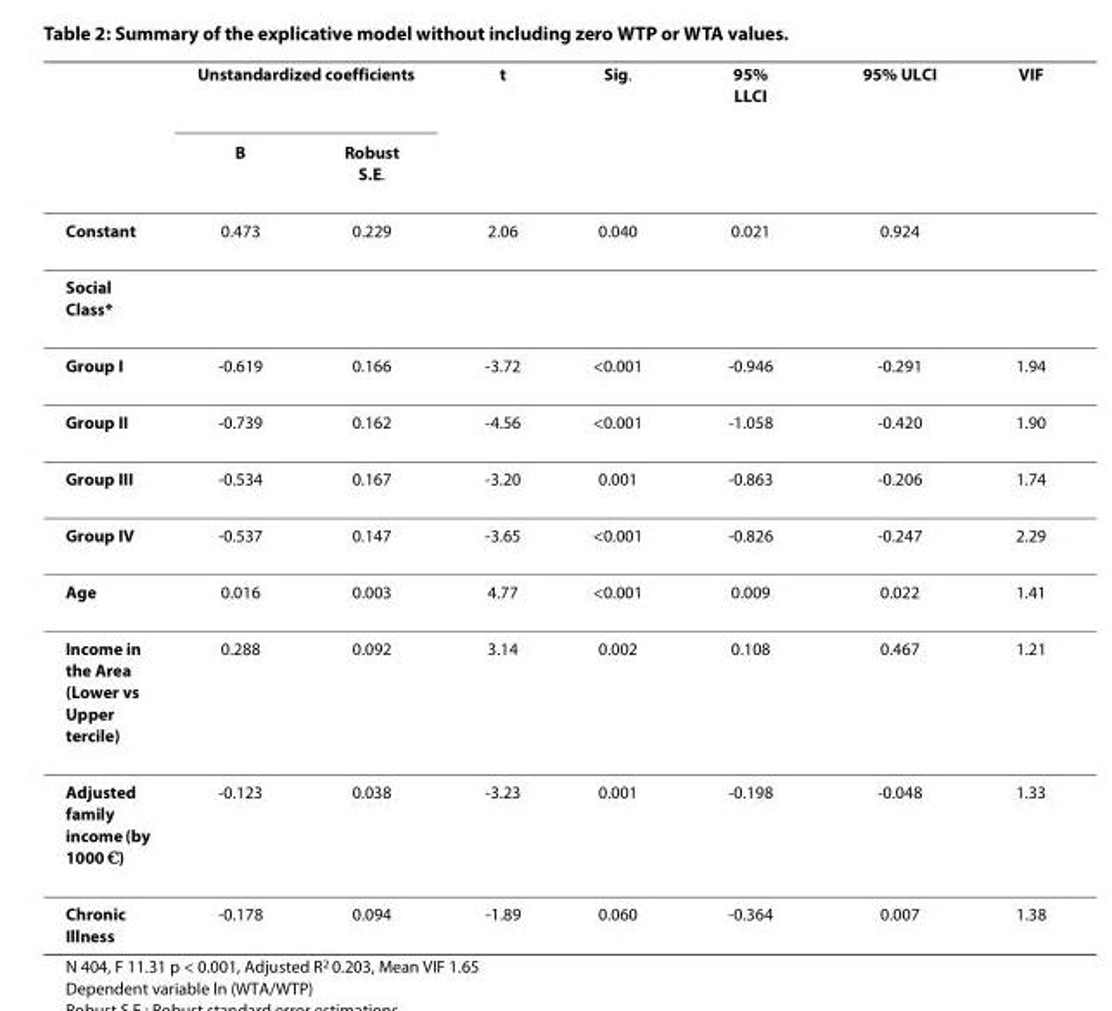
<table><thead><tr><td rowspan="2"></td><td colspan="2">Unstandardized coefficients</td><td rowspan="2">t</td><td rowspan="2">Sig.</td><td rowspan="2">95% LLCI</td><td rowspan="2">95% ULCI</td><td rowspan="2">VIF</td></tr><tr><td>B</td><td>Robust S.E.</td></tr></thead><tbody><tr><td>Constant</td><td>0.473</td><td>0.229</td><td>2.06</td><td>0.040</td><td>0.021</td><td>0.924</td><td></td></tr><tr><td colspan="8">Social Class*</td></tr><tr><td>Group I</td><td>-0.619</td><td>0.166</td><td>-3.72</td><td>&lt;0.001</td><td>-0.946</td><td>-0.291</td><td>1.94</td></tr><tr><td>Group II</td><td>-0.739</td><td>0.162</td><td>-4.56</td><td>&lt;0.001</td><td>-1.058</td><td>-0.420</td><td>1.90</td></tr><tr><td>Group III</td><td>-0.534</td><td>0.167</td><td>-3.20</td><td>0.001</td><td>-0.863</td><td>-0.206</td><td>1.74</td></tr><tr><td>Group IV</td><td>-0.537</td><td>0.147</td><td>-3.65</td><td>&lt;0.001</td><td>-0.826</td><td>-0.247</td><td>2.29</td></tr><tr><td>Age</td><td>0.016</td><td>0.003</td><td>4.77</td><td>&lt;0.001</td><td>0.009</td><td>0.022</td><td>1.41</td></tr><tr><td>Income in the Area (Lower vs Upper tercile)</td><td>0.288</td><td>0.092</td><td>3.14</td><td>0.002</td><td>0.108</td><td>0.467</td><td>1.21</td></tr><tr><td>Adjusted family income (by 1000 €)</td><td>-0.123</td><td>0.038</td><td>-3.23</td><td>0.001</td><td>-0.198</td><td>-0.048</td><td>1.33</td></tr><tr><td>Chronic Illness</td><td>-0.178</td><td>0.094</td><td>-1.89</td><td>0.060</td><td>-0.364</td><td>0.007</td><td>1.38</td></tr></tbody></table>